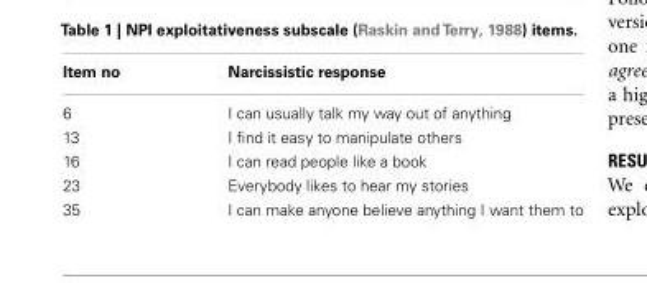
<table><thead><tr><td>Item no</td><td>Narcissistic response</td></tr></thead><tbody><tr><td>6</td><td>I can usually talk my way out of anything</td></tr><tr><td>13</td><td>I find it easy to manipulate others</td></tr><tr><td>16</td><td>I can read people like a book</td></tr><tr><td>23</td><td>Everybody likes to hear my stories</td></tr><tr><td>35</td><td>I can make anyone believe anything I want them to</td></tr></tbody></table>